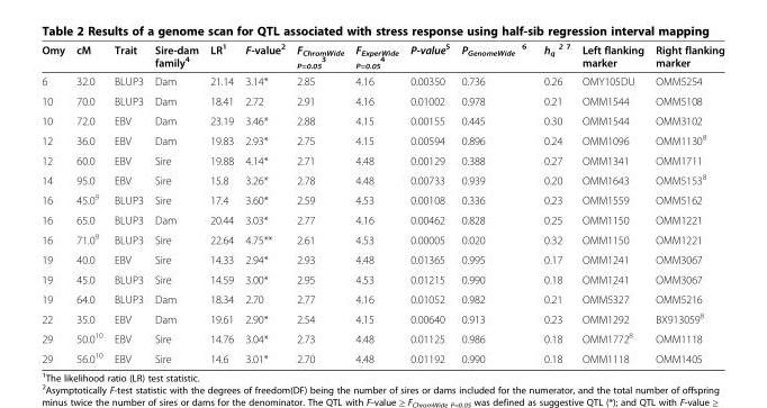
<table><thead><tr><td>Omy</td><td>cM</td><td>Trait</td><td>Sire-dam family<sup>4</sup></td><td>LR<sup>1</sup></td><td>F-value<sup>2</sup></td><td>F<sub>ChromWide P=0.05</sub> <sup>3</sup></td><td>F<sub>ExperWide P=0.05</sub> <sup>4</sup></td><td>P-value<sup>5</sup></td><td>P<sub>GenomeWide</sub> <sup>6</sup></td><td>h<sub>q</sub> <sup>2 7</sup></td><td>Left flanking marker</td><td>Right flanking marker</td></tr></thead><tbody><tr><td>6</td><td>32.0</td><td>BLUP3</td><td>Dam</td><td>21.14</td><td>3.14*</td><td>2.85</td><td>4.16</td><td>0.00350</td><td>0.736</td><td>0.26</td><td>OMY105DU</td><td>OMM5254</td></tr><tr><td>10</td><td>70.0</td><td>BLUP3</td><td>Dam</td><td>18.41</td><td>2.72</td><td>2.91</td><td>4.16</td><td>0.01002</td><td>0.978</td><td>0.21</td><td>OMM1544</td><td>OMM5108</td></tr><tr><td>10</td><td>72.0</td><td>EBV</td><td>Dam</td><td>23.19</td><td>3.46*</td><td>2.88</td><td>4.15</td><td>0.00155</td><td>0.445</td><td>0.30</td><td>OMM1544</td><td>OMM3102</td></tr><tr><td>12</td><td>36.0</td><td>EBV</td><td>Dam</td><td>19.83</td><td>2.93*</td><td>2.75</td><td>4.15</td><td>0.00594</td><td>0.896</td><td>0.24</td><td>OMM1096</td><td>OMM1130<sup>8</sup></td></tr><tr><td>12</td><td>60.0</td><td>EBV</td><td>Sire</td><td>19.88</td><td>4.14*</td><td>2.71</td><td>4.48</td><td>0.00129</td><td>0.388</td><td>0.27</td><td>OMM1341</td><td>OMM1711</td></tr><tr><td>14</td><td>95.0</td><td>EBV</td><td>Sire</td><td>15.8</td><td>3.26*</td><td>2.78</td><td>4.48</td><td>0.00733</td><td>0.939</td><td>0.20</td><td>OMM1643</td><td>OMM5153<sup>8</sup></td></tr><tr><td>16</td><td>45.0<sup>9</sup></td><td>BLUP3</td><td>Sire</td><td>17.4</td><td>3.60*</td><td>2.59</td><td>4.53</td><td>0.00108</td><td>0.336</td><td>0.23</td><td>OMM1559</td><td>OMM5162</td></tr><tr><td>16</td><td>65.0</td><td>BLUP3</td><td>Dam</td><td>20.44</td><td>3.03*</td><td>2.77</td><td>4.16</td><td>0.00462</td><td>0.828</td><td>0.25</td><td>OMM1150</td><td>OMM1221</td></tr><tr><td>16</td><td>71.0<sup>9</sup></td><td>BLUP3</td><td>Sire</td><td>22.64</td><td>4.75**</td><td>2.61</td><td>4.53</td><td>0.00005</td><td>0.020</td><td>0.32</td><td>OMM1150</td><td>OMM1221</td></tr><tr><td>19</td><td>40.0</td><td>EBV</td><td>Sire</td><td>14.33</td><td>2.94*</td><td>2.93</td><td>4.48</td><td>0.01365</td><td>0.995</td><td>0.17</td><td>OMM1241</td><td>OMM3067</td></tr><tr><td>19</td><td>45.0</td><td>BLUP3</td><td>Sire</td><td>14.59</td><td>3.00*</td><td>2.95</td><td>4.53</td><td>0.01215</td><td>0.990</td><td>0.18</td><td>OMM1241</td><td>OMM3067</td></tr><tr><td>19</td><td>64.0</td><td>BLUP3</td><td>Dam</td><td>18.34</td><td>2.70</td><td>2.77</td><td>4.16</td><td>0.01052</td><td>0.982</td><td>0.21</td><td>OMM5327</td><td>OMM5216</td></tr><tr><td>22</td><td>35.0</td><td>EBV</td><td>Dam</td><td>19.61</td><td>2.90*</td><td>2.54</td><td>4.15</td><td>0.00640</td><td>0.913</td><td>0.23</td><td>OMM1292</td><td>BX913059<sup>8</sup></td></tr><tr><td>29</td><td>50.0<sup>10</sup></td><td>EBV</td><td>Sire</td><td>14.76</td><td>3.04*</td><td>2.73</td><td>4.48</td><td>0.01125</td><td>0.986</td><td>0.18</td><td>OMM1772<sup>8</sup></td><td>OMM1118</td></tr><tr><td>29</td><td>56.0<sup>10</sup></td><td>EBV</td><td>Sire</td><td>14.6</td><td>3.01*</td><td>2.70</td><td>4.48</td><td>0.01192</td><td>0.990</td><td>0.18</td><td>OMM1118</td><td>OMM1405</td></tr></tbody></table>